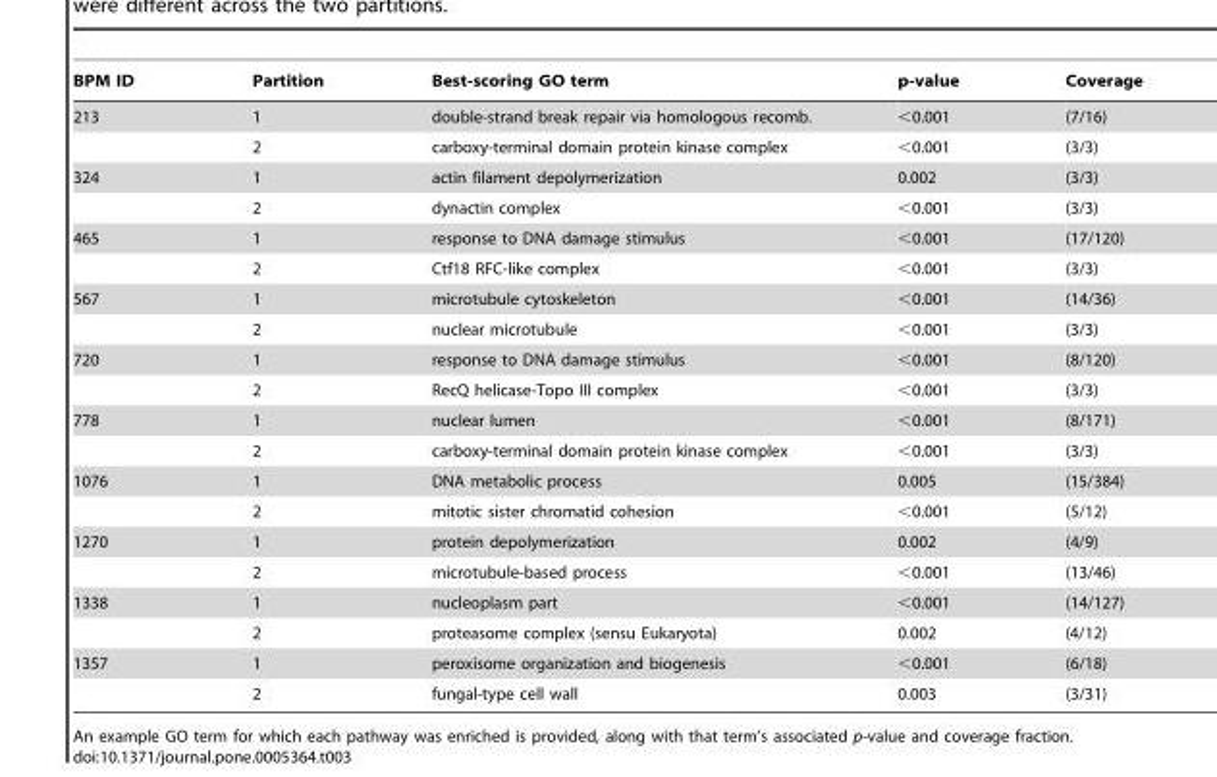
<table><thead><tr><td>BPM ID</td><td>Partition</td><td>Best-scoring GO term</td><td>p-value</td><td>Coverage</td></tr></thead><tbody><tr><td rowspan="2">213</td><td>1</td><td>double-strand break repair via homologous recomb.</td><td>&lt;0.001</td><td>(7/16)</td></tr><tr><td>2</td><td>carboxy-terminal domain protein kinase complex</td><td>&lt;0.001</td><td>(3/3)</td></tr><tr><td rowspan="2">324</td><td>1</td><td>actin filament depolymerization</td><td>0.002</td><td>(3/3)</td></tr><tr><td>2</td><td>dynactin complex</td><td>&lt;0.001</td><td>(3/3)</td></tr><tr><td rowspan="2">465</td><td>1</td><td>response to DNA damage stimulus</td><td>&lt;0.001</td><td>(17/120)</td></tr><tr><td>2</td><td>Ctf18 RFC-like complex</td><td>&lt;0.001</td><td>(3/3)</td></tr><tr><td rowspan="2">567</td><td>1</td><td>microtubule cytoskeleton</td><td>&lt;0.001</td><td>(14/36)</td></tr><tr><td>2</td><td>nuclear microtubule</td><td>&lt;0.001</td><td>(3/3)</td></tr><tr><td rowspan="2">720</td><td>1</td><td>response to DNA damage stimulus</td><td>&lt;0.001</td><td>(8/120)</td></tr><tr><td>2</td><td>RecQ helicase-Topo III complex</td><td>&lt;0.001</td><td>(3/3)</td></tr><tr><td rowspan="2">778</td><td>1</td><td>nuclear lumen</td><td>&lt;0.001</td><td>(8/171)</td></tr><tr><td>2</td><td>carboxy-terminal domain protein kinase complex</td><td>&lt;0.001</td><td>(3/3)</td></tr><tr><td rowspan="2">1076</td><td>1</td><td>DNA metabolic process</td><td>0.005</td><td>(15/384)</td></tr><tr><td>2</td><td>mitotic sister chromatid cohesion</td><td>&lt;0.001</td><td>(5/12)</td></tr><tr><td rowspan="2">1270</td><td>1</td><td>protein depolymerization</td><td>0.002</td><td>(4/9)</td></tr><tr><td>2</td><td>microtubule-based process</td><td>&lt;0.001</td><td>(13/46)</td></tr><tr><td rowspan="2">1338</td><td>1</td><td>nucleoplasm part</td><td>&lt;0.001</td><td>(14/127)</td></tr><tr><td>2</td><td>proteasome complex (sensu Eukaryota)</td><td>0.002</td><td>(4/12)</td></tr><tr><td rowspan="2">1357</td><td>1</td><td>peroxisome organization and biogenesis</td><td>&lt;0.001</td><td>(6/18)</td></tr><tr><td>2</td><td>fungal-type cell wall</td><td>0.003</td><td>(3/31)</td></tr></tbody></table>